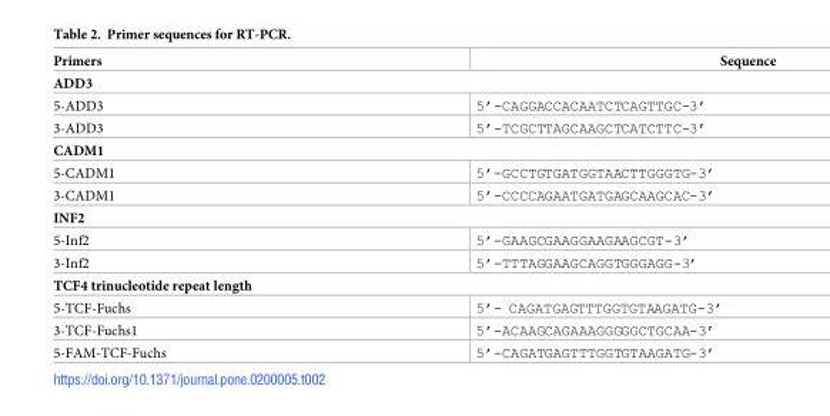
<table><thead><tr><td>Primers</td><td>Sequence</td></tr></thead><tbody><tr><td colspan="2">ADD3</td></tr><tr><td>5-ADD3</td><td>5’-CAGGACCACAATCTCAGTTGC-3’</td></tr><tr><td>3-ADD3</td><td>5’-TCGCTTAGCAAGCTCATCTTC-3’</td></tr><tr><td colspan="2">CADM1</td></tr><tr><td>5-CADM1</td><td>5’-GCCTGTGATGGTAACTTGGGTG-3’</td></tr><tr><td>3-CADM1</td><td>5’-CCCCAGAATGATGAGCAAGCAC-3’</td></tr><tr><td colspan="2">INF2</td></tr><tr><td>5-Inf2</td><td>5’-GAAGCGAAGGAAGAAGCGT-3’</td></tr><tr><td>3-Inf2</td><td>5’-TTTAGGAAGCAGGTGGGAGG-3’</td></tr><tr><td colspan="2">TCF4 trinucleotide repeat length</td></tr><tr><td>5-TCF-Fuchs</td><td>5’- CAGATGAGTTTGGTGTAAGATG-3’</td></tr><tr><td>3-TCF-Fuchs1</td><td>5’-ACAAGCAGAAAGGGGGCTGCAA-3’</td></tr><tr><td>5-FAM-TCF-Fuchs</td><td>5’-CAGATGAGTTTGGTGTAAGATG-3’</td></tr></tbody></table>